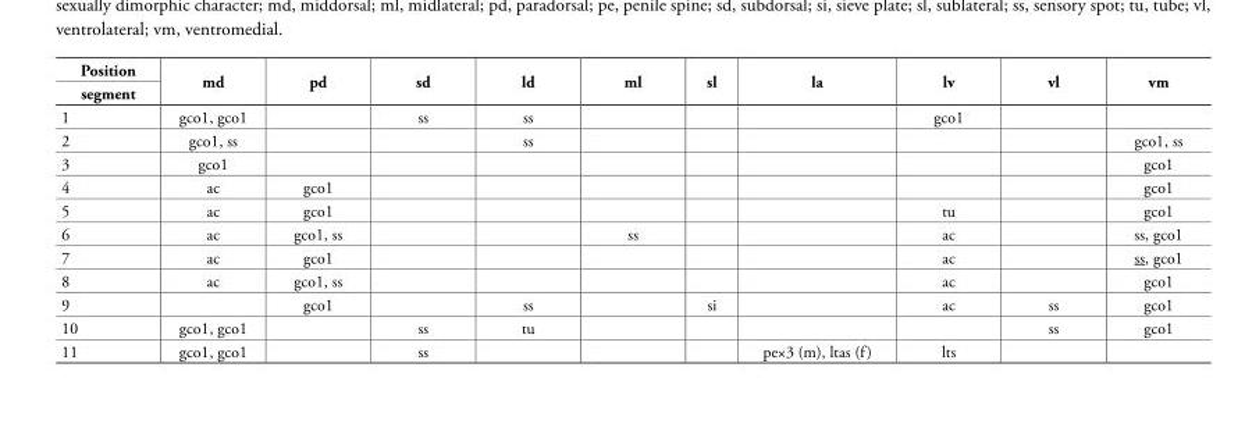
<table><thead><tr><td rowspan="2">Position segment</td><td rowspan="2">md</td><td rowspan="2">pd</td><td rowspan="2">sd</td><td rowspan="2">ld</td><td rowspan="2">ml</td><td rowspan="2">sl</td><td rowspan="2">la</td><td rowspan="2">lv</td><td rowspan="2">vl</td><td rowspan="2">vm</td></tr><tr></tr></thead><tbody><tr><td>1</td><td>gco1, gco1</td><td></td><td>ss</td><td>ss</td><td></td><td></td><td></td><td>gco1</td><td></td><td></td></tr><tr><td>2</td><td>gco1, ss</td><td></td><td></td><td>ss</td><td></td><td></td><td></td><td></td><td></td><td>gco1, ss</td></tr><tr><td>3</td><td>gco1</td><td></td><td></td><td></td><td></td><td></td><td></td><td></td><td></td><td>gco1</td></tr><tr><td>4</td><td>ac</td><td>gco1</td><td></td><td></td><td></td><td></td><td></td><td></td><td></td><td>gco1</td></tr><tr><td>5</td><td>ac</td><td>gco1</td><td></td><td></td><td></td><td></td><td></td><td>tu</td><td></td><td>gco1</td></tr><tr><td>6</td><td>ac</td><td>gco1, ss</td><td></td><td></td><td>ss</td><td></td><td></td><td>ac</td><td></td><td>ss, gco1</td></tr><tr><td>7</td><td>ac</td><td>gco1</td><td></td><td></td><td></td><td></td><td></td><td>ac</td><td></td><td>ss, gco1</td></tr><tr><td>8</td><td>ac</td><td>gco1, ss</td><td></td><td></td><td></td><td></td><td></td><td>ac</td><td></td><td>gco1</td></tr><tr><td>9</td><td></td><td>gco1</td><td></td><td>ss</td><td></td><td>si</td><td></td><td>ac</td><td>ss</td><td>gco1</td></tr><tr><td>10</td><td>gco1, gco1</td><td></td><td>ss</td><td>tu</td><td></td><td></td><td></td><td></td><td>ss</td><td>gco1</td></tr><tr><td>11</td><td>gco1, gco1</td><td></td><td>ss</td><td></td><td></td><td></td><td>pe×3 (m), ltas (f)</td><td>lts</td><td></td><td></td></tr></tbody></table>